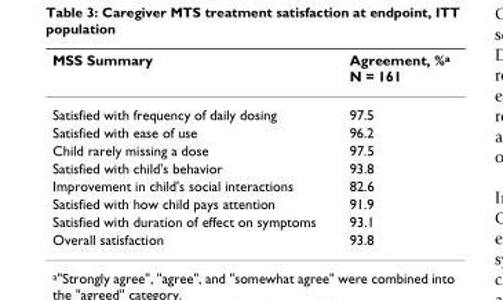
<table><thead><tr><td>MSS Summary</td><td>Agreement, %<sup>a</sup> N = 161</td></tr></thead><tbody><tr><td>Satisfied with frequency of daily dosing</td><td>97.5</td></tr><tr><td>Satisfied with ease of use</td><td>96.2</td></tr><tr><td>Child rarely missing a dose</td><td>97.5</td></tr><tr><td>Satisfied with child&#x27;s behavior</td><td>93.8</td></tr><tr><td>Improvement in child&#x27;s social interactions</td><td>82.6</td></tr><tr><td>Satisfied with how child pays attention</td><td>91.9</td></tr><tr><td>Satisfied with duration of effect on symptoms</td><td>93.1</td></tr><tr><td>Overall satisfaction</td><td>93.8</td></tr></tbody></table>